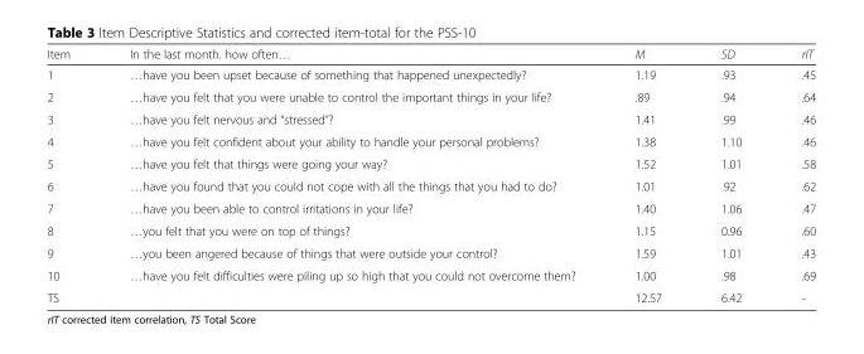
<table><thead><tr><td>Item</td><td>In the last month. how often…</td><td>M</td><td>SD</td><td>rIT</td></tr></thead><tbody><tr><td>1</td><td>…have you been upset because of something that happened unexpectedly?</td><td>1.19</td><td>.93</td><td>.45</td></tr><tr><td>2</td><td>…have you felt that you were unable to control the important things in your life?</td><td>.89</td><td>.94</td><td>.64</td></tr><tr><td>3</td><td>…have you felt nervous and “stressed”?</td><td>1.41</td><td>.99</td><td>.46</td></tr><tr><td>4</td><td>…have you felt confident about your ability to handle your personal problems?</td><td>1.38</td><td>1.10</td><td>.46</td></tr><tr><td>5</td><td>…have you felt that things were going your way?</td><td>1.52</td><td>1.01</td><td>.58</td></tr><tr><td>6</td><td>…have you found that you could not cope with all the things that you had to do?</td><td>1.01</td><td>.92</td><td>.62</td></tr><tr><td>7</td><td>…have you been able to control irritations in your life?</td><td>1.40</td><td>1.06</td><td>.47</td></tr><tr><td>8</td><td>…you felt that you were on top of things?</td><td>1.15</td><td>0.96</td><td>.60</td></tr><tr><td>9</td><td>…you been angered because of things that were outside your control?</td><td>1.59</td><td>1.01</td><td>.43</td></tr><tr><td>10</td><td>…have you felt difficulties were piling up so high that you could not overcome them?</td><td>1.00</td><td>.98</td><td>.69</td></tr><tr><td>TS</td><td></td><td>12.57</td><td>6.42</td><td>-</td></tr></tbody></table>